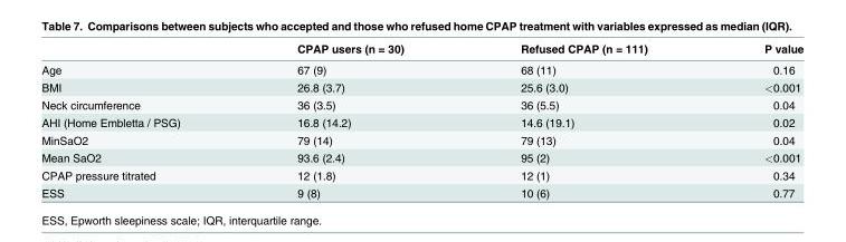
<table><thead><tr><td></td><td>CPAP users (n = 30)</td><td>Refused CPAP (n = 111)</td><td>P value</td></tr></thead><tbody><tr><td>Age</td><td>67 (9)</td><td>68 (11)</td><td>0.16</td></tr><tr><td>BMI</td><td>26.8 (3.7)</td><td>25.6 (3.0)</td><td>&lt;0.001</td></tr><tr><td>Neck circumference</td><td>36 (3.5)</td><td>36 (5.5)</td><td>0.04</td></tr><tr><td>AHI (Home Embletta / PSG)</td><td>16.8 (14.2)</td><td>14.6 (19.1)</td><td>0.02</td></tr><tr><td>MinSaO2</td><td>79 (14)</td><td>79 (13)</td><td>0.04</td></tr><tr><td>Mean SaO2</td><td>93.6 (2.4)</td><td>95 (2)</td><td>&lt;0.001</td></tr><tr><td>CPAP pressure titrated</td><td>12 (1.8)</td><td>12 (1)</td><td>0.34</td></tr><tr><td>ESS</td><td>9 (8)</td><td>10 (6)</td><td>0.77</td></tr></tbody></table>